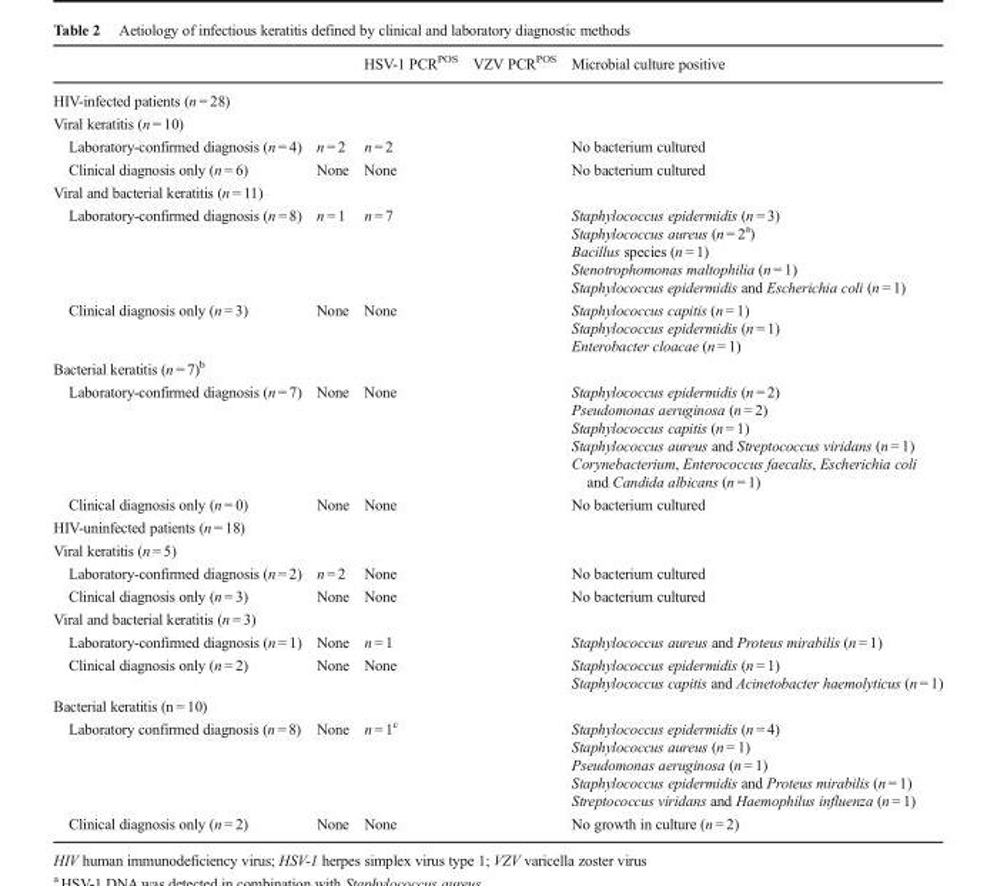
<table><thead><tr><td></td><td></td><td>HSV-1 PCR<sup>POS</sup></td><td>VZV PCR<sup>POS</sup></td><td>Microbial culture positive</td></tr></thead><tbody><tr><td colspan="5">HIV-infected patients (n = 28)</td></tr><tr><td colspan="5">Viral keratitis (n = 10)</td></tr><tr><td>Laboratory-confirmed diagnosis (n = 4)</td><td>n = 2</td><td>n = 2</td><td></td><td>No bacterium cultured</td></tr><tr><td>Clinical diagnosis only (n = 6)</td><td>None</td><td>None</td><td></td><td>No bacterium cultured</td></tr><tr><td colspan="5">Viral and bacterial keratitis (n = 11)</td></tr><tr><td>Laboratory-confirmed diagnosis (n = 8)</td><td>n = 1</td><td>n = 7</td><td></td><td>Staphylococcus epidermidis (n = 3) Staphylococcus aureus (n = 2<sup>a</sup>) Bacillus species (n = 1) Stenotrophomonas maltophilia (n = 1) Staphylococcus epidermidis and Escherichia coli (n = 1)</td></tr><tr><td>Clinical diagnosis only (n = 3)</td><td>None</td><td>None</td><td></td><td>Staphylococcus capitis (n = 1) Staphylococcus epidermidis (n = 1) Enterobacter cloacae (n = 1)</td></tr><tr><td colspan="5">Bacterial keratitis (n = 7)<sup>b</sup></td></tr><tr><td>Laboratory-confirmed diagnosis (n = 7)</td><td>None</td><td>None</td><td></td><td>Staphylococcus epidermidis (n = 2) Pseudomonas aeruginosa (n = 2) Staphylococcus capitis (n = 1) Staphylococcus aureus and Streptococcus viridans (n = 1) Corynebacterium, Enterococcus faecalis, Escherichia coli and Candida albicans (n = 1)</td></tr><tr><td>Clinical diagnosis only (n = 0)</td><td>None</td><td>None</td><td></td><td>No bacterium cultured</td></tr><tr><td colspan="5">HIV-uninfected patients (n = 18)</td></tr><tr><td colspan="5">Viral keratitis (n = 5)</td></tr><tr><td>Laboratory-confirmed diagnosis (n = 2)</td><td>n = 2</td><td>None</td><td></td><td>No bacterium cultured</td></tr><tr><td>Clinical diagnosis only (n = 3)</td><td>None</td><td>None</td><td></td><td>No bacterium cultured</td></tr><tr><td colspan="5">Viral and bacterial keratitis (n = 3)</td></tr><tr><td>Laboratory-confirmed diagnosis (n = 1)</td><td>None</td><td>n = 1</td><td></td><td>Staphylococcus aureus and Proteus mirabilis (n = 1)</td></tr><tr><td>Clinical diagnosis only (n = 2)</td><td>None</td><td>None</td><td></td><td>Staphylococcus epidermidis (n = 1) Staphylococcus capitis and Acinetobacter haemolyticus (n = 1)</td></tr><tr><td colspan="5">Bacterial keratitis (n = 10)</td></tr><tr><td>Laboratory confirmed diagnosis (n = 8)</td><td>None</td><td>n = 1<sup>c</sup></td><td></td><td>Staphylococcus epidermidis (n = 4) Staphylococcus aureus (n = 1) Pseudomonas aeruginosa (n = 1) Staphylococcus epidermidis and Proteus mirabilis (n = 1) Streptococcus viridans and Haemophilus influenza (n = 1)</td></tr><tr><td>Clinical diagnosis only (n = 2)</td><td>None</td><td>None</td><td></td><td>No growth in culture (n = 2)</td></tr></tbody></table>